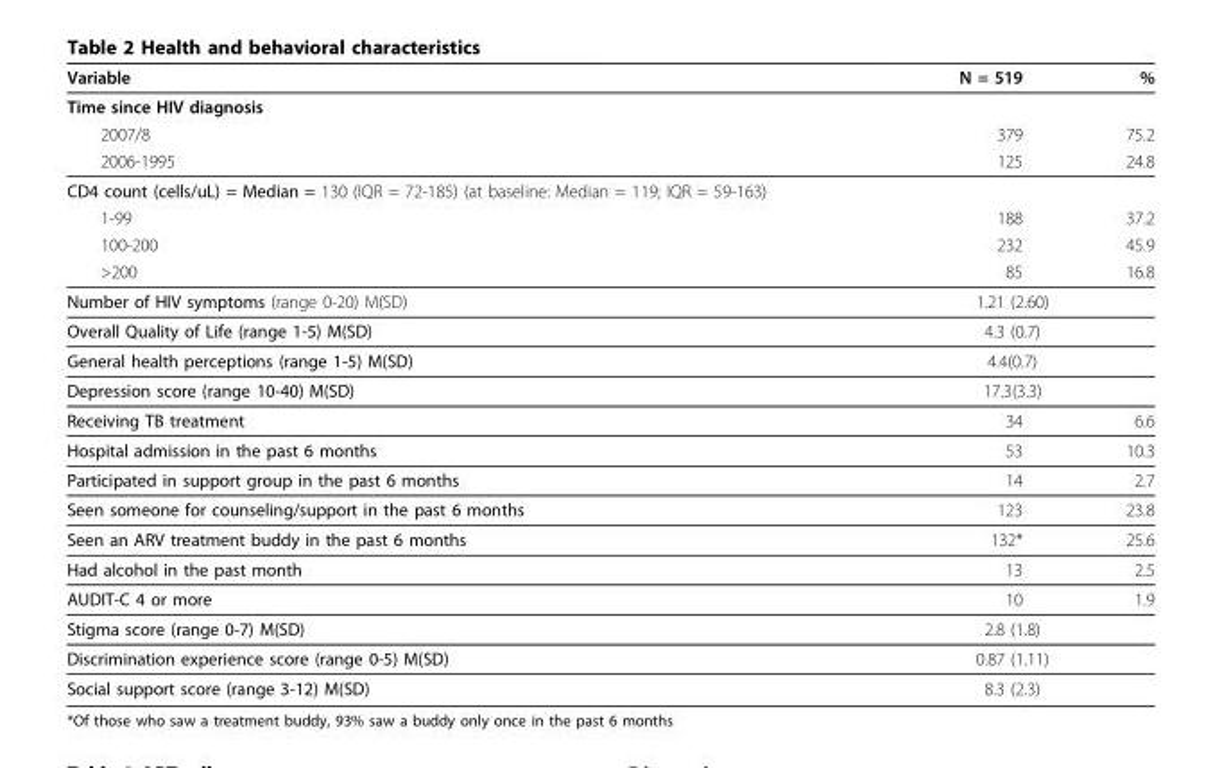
<table><thead><tr><td>Variable</td><td>N = 519</td><td>%</td></tr></thead><tbody><tr><td colspan="3">Time since HIV diagnosis</td></tr><tr><td>2007/8</td><td>379</td><td>75.2</td></tr><tr><td>2006-1995</td><td>125</td><td>24.8</td></tr><tr><td colspan="3">CD4 count (cells/uL) = Median = 130 (IQR = 72-185) (at baseline: Median = 119; IQR = 59-163)</td></tr><tr><td>1-99</td><td>188</td><td>37.2</td></tr><tr><td>100-200</td><td>232</td><td>45.9</td></tr><tr><td>&gt;200</td><td>85</td><td>16.8</td></tr><tr><td>Number of HIV symptoms (range 0-20) M(SD)</td><td colspan="2">1.21 (2.60)</td></tr><tr><td>Overall Quality of Life (range 1-5) M(SD)</td><td colspan="2">4.3 (0.7)</td></tr><tr><td>General health perceptions (range 1-5) M(SD)</td><td colspan="2">4.4(0.7)</td></tr><tr><td>Depression score (range 10-40) M(SD)</td><td colspan="2">17.3(3.3)</td></tr><tr><td>Receiving TB treatment</td><td>34</td><td>6.6</td></tr><tr><td>Hospital admission in the past 6 months</td><td>53</td><td>10.3</td></tr><tr><td>Participated in support group in the past 6 months</td><td>14</td><td>2.7</td></tr><tr><td>Seen someone for counseling/support in the past 6 months</td><td>123</td><td>23.8</td></tr><tr><td>Seen an ARV treatment buddy in the past 6 months</td><td>132*</td><td>25.6</td></tr><tr><td>Had alcohol in the past month</td><td>13</td><td>2.5</td></tr><tr><td>AUDIT-C 4 or more</td><td>10</td><td>1.9</td></tr><tr><td>Stigma score (range 0-7) M(SD)</td><td colspan="2">2.8 (1.8)</td></tr><tr><td>Discrimination experience score (range 0-5) M(SD)</td><td colspan="2">0.87 (1.11)</td></tr><tr><td>Social support score (range 3-12) M(SD)</td><td colspan="2">8.3 (2.3)</td></tr></tbody></table>